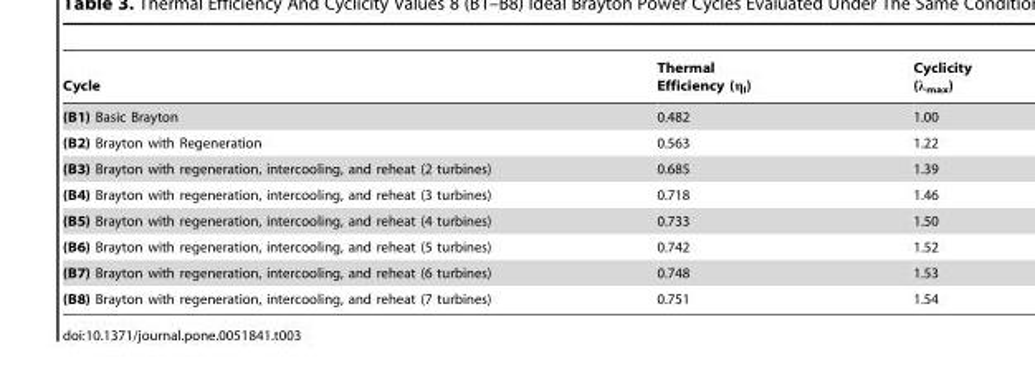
<table><thead><tr><td>Cycle</td><td>Thermal Efficiency (η<sub>I</sub>)</td><td>Cyclicity (λ<sub>max</sub>)</td></tr></thead><tbody><tr><td>(B1) Basic Brayton</td><td>0.482</td><td>1.00</td></tr><tr><td>(B2) Brayton with Regeneration</td><td>0.563</td><td>1.22</td></tr><tr><td>(B3) Brayton with regeneration, intercooling, and reheat (2 turbines)</td><td>0.685</td><td>1.39</td></tr><tr><td>(B4) Brayton with regeneration, intercooling, and reheat (3 turbines)</td><td>0.718</td><td>1.46</td></tr><tr><td>(B5) Brayton with regeneration, intercooling, and reheat (4 turbines)</td><td>0.733</td><td>1.50</td></tr><tr><td>(B6) Brayton with regeneration, intercooling, and reheat (5 turbines)</td><td>0.742</td><td>1.52</td></tr><tr><td>(B7) Brayton with regeneration, intercooling, and reheat (6 turbines)</td><td>0.748</td><td>1.53</td></tr><tr><td>(B8) Brayton with regeneration, intercooling, and reheat (7 turbines)</td><td>0.751</td><td>1.54</td></tr></tbody></table>